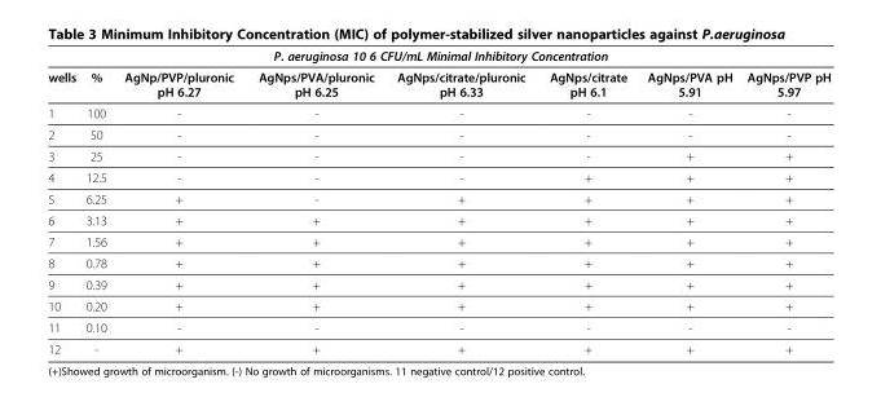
<table><thead><tr><td colspan="8">P. aeruginosa 10 6 CFU/mL Minimal Inhibitory Concentration</td></tr><tr><td>wells</td><td>%</td><td>AgNp/PVP/pluronic pH 6.27</td><td>AgNps/PVA/pluronic pH 6.25</td><td>AgNps/citrate/pluronic pH 6.33</td><td>AgNps/citrate pH 6.1</td><td>AgNps/PVA pH 5.91</td><td>AgNps/PVP pH 5.97</td></tr></thead><tbody><tr><td>1</td><td>100</td><td>-</td><td>-</td><td>-</td><td>-</td><td>-</td><td>-</td></tr><tr><td>2</td><td>50</td><td>-</td><td>-</td><td>-</td><td>-</td><td>-</td><td>-</td></tr><tr><td>3</td><td>25</td><td>-</td><td>-</td><td>-</td><td>-</td><td>+</td><td>+</td></tr><tr><td>4</td><td>12.5</td><td>-</td><td>-</td><td>-</td><td>+</td><td>+</td><td>+</td></tr><tr><td>5</td><td>6.25</td><td>+</td><td>-</td><td>+</td><td>+</td><td>+</td><td>+</td></tr><tr><td>6</td><td>3.13</td><td>+</td><td>+</td><td>+</td><td>+</td><td>+</td><td>+</td></tr><tr><td>7</td><td>1.56</td><td>+</td><td>+</td><td>+</td><td>+</td><td>+</td><td>+</td></tr><tr><td>8</td><td>0.78</td><td>+</td><td>+</td><td>+</td><td>+</td><td>+</td><td>+</td></tr><tr><td>9</td><td>0.39</td><td>+</td><td>+</td><td>+</td><td>+</td><td>+</td><td>+</td></tr><tr><td>10</td><td>0.20</td><td>+</td><td>+</td><td>+</td><td>+</td><td>+</td><td>+</td></tr><tr><td>11</td><td>0.10</td><td>-</td><td>-</td><td>-</td><td>-</td><td>-</td><td>-</td></tr><tr><td>12</td><td>-</td><td>+</td><td>+</td><td>+</td><td>+</td><td>+</td><td>+</td></tr></tbody></table>